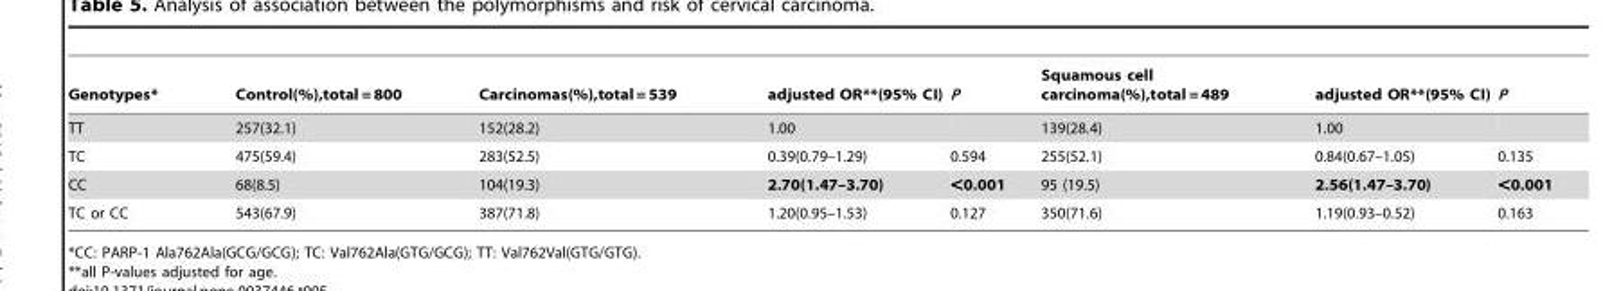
<table><thead><tr><td>Genotypes*</td><td>Control(%),total = 800</td><td>Carcinomas(%),total = 539</td><td>adjusted OR**(95% CI)</td><td>P</td><td>Squamous cell carcinoma(%),total = 489</td><td>adjusted OR**(95% CI)</td><td>P</td></tr></thead><tbody><tr><td>TT</td><td>257(32.1)</td><td>152(28.2)</td><td>1.00</td><td></td><td>139(28.4)</td><td>1.00</td><td></td></tr><tr><td>TC</td><td>475(59.4)</td><td>283(52.5)</td><td>0.39(0.79–1.29)</td><td>0.594</td><td>255(52.1)</td><td>0.84(0.67–1.05)</td><td>0.135</td></tr><tr><td>CC</td><td>68(8.5)</td><td>104(19.3)</td><td>2.70(1.47–3.70)</td><td>&lt;0.001</td><td>95 (19.5)</td><td>2.56(1.47–3.70)</td><td>&lt;0.001</td></tr><tr><td>TC or CC</td><td>543(67.9)</td><td>387(71.8)</td><td>1.20(0.95–1.53)</td><td>0.127</td><td>350(71.6)</td><td>1.19(0.93–0.52)</td><td>0.163</td></tr></tbody></table>